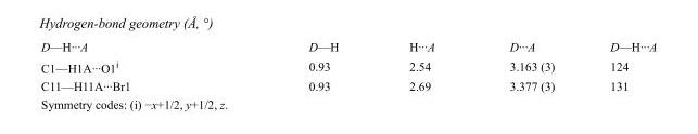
<table><tbody><tr><td>D—H···A</td><td>D—H</td><td>H···A</td><td>D···A</td><td>D—H···A</td></tr><tr><td>C1—H1A···O1<sup>i</sup></td><td>0.93</td><td>2.54</td><td>3.163 (3)</td><td>124</td></tr><tr><td>C11—H11A···Br1</td><td>0.93</td><td>2.69</td><td>3.377 (3)</td><td>131</td></tr></tbody></table>